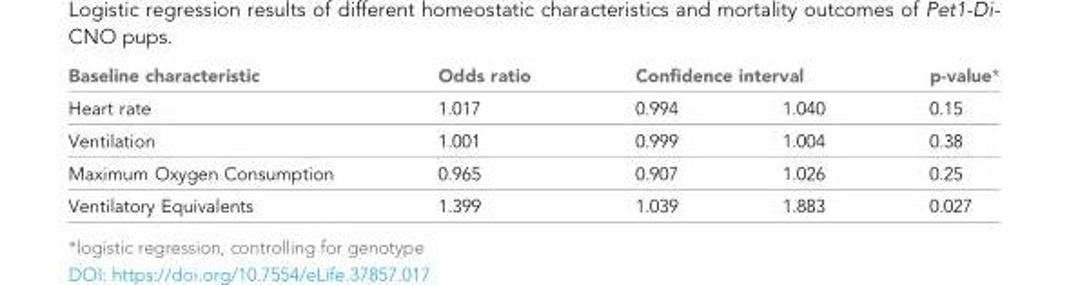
<table><thead><tr><td rowspan="2">Baseline characteristic Heart rate</td><td rowspan="2">Odds ratio 1.017</td><td colspan="2">Confidence interval</td><td rowspan="2">p-value* 0.15</td></tr><tr><td>0.994</td><td>1.040</td></tr></thead><tbody><tr><td>Ventilation</td><td>1.001</td><td>0.999</td><td>1.004</td><td>0.38</td></tr><tr><td>Maximum Oxygen Consumption</td><td>0.965</td><td>0.907</td><td>1.026</td><td>0.25</td></tr><tr><td>Ventilatory Equivalents</td><td>1.399</td><td>1.039</td><td>1.883</td><td>0.027</td></tr></tbody></table>